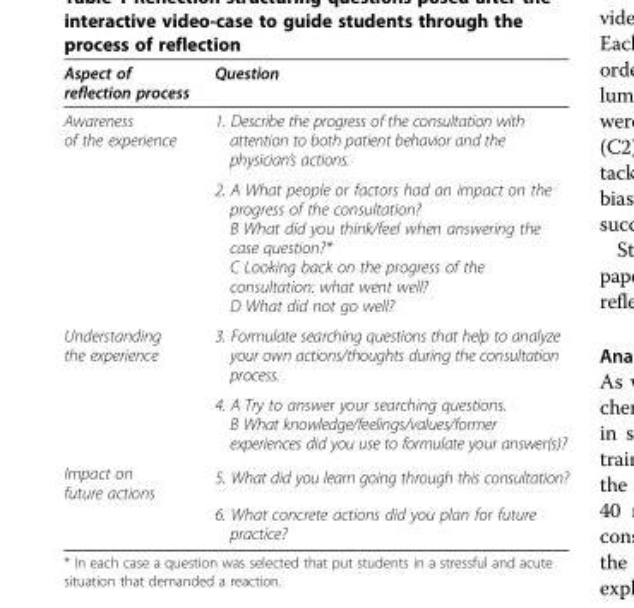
<table><thead><tr><td>Aspect of reflection process</td><td>Question</td></tr></thead><tbody><tr><td rowspan="2">Awareness of the experience</td><td>1. Describe the progress of the consultation with attention to both patient behavior and the physician’s actions.</td></tr><tr><td>2. A What people or factors had an impact on the progress of the consultation? B What did you think/feel when answering the case question?* C Looking back on the progress of the consultation: what went well? D What did not go well?</td></tr><tr><td rowspan="2">Understanding the experience</td><td>3. Formulate searching questions that help to analyze your own actions/thoughts during the consultation process.</td></tr><tr><td>4. A Try to answer your searching questions. B What knowledge/feelings/values/former experiences did you use to formulate your answer(s)?</td></tr><tr><td rowspan="2">Impact on future actions</td><td>5. What did you learn going through this consultation?</td></tr><tr><td>6. What concrete actions did you plan for future practice?</td></tr></tbody></table>